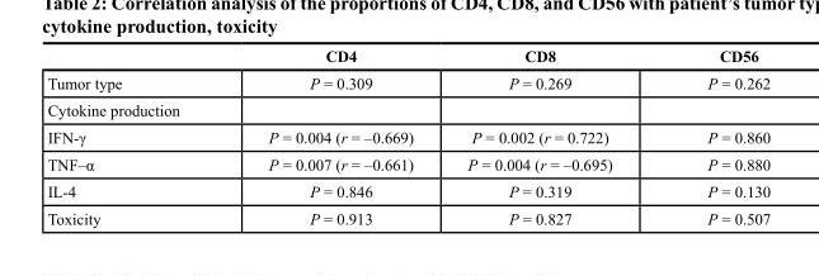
<table><thead><tr><td></td><td>CD4</td><td>CD8</td><td>CD56</td></tr></thead><tbody><tr><td>Tumor type</td><td>P = 0.309</td><td>P = 0.269</td><td>P = 0.262</td></tr><tr><td colspan="4">Cytokine production</td></tr><tr><td>IFN-γ</td><td>P = 0.004 (r = –0.669)</td><td>P = 0.002 (r = 0.722)</td><td>P = 0.860</td></tr><tr><td>TNF–α</td><td>P = 0.007 (r = –0.661)</td><td>P = 0.004 (r = –0.695)</td><td>P = 0.880</td></tr><tr><td>IL-4</td><td>P = 0.846</td><td>P = 0.319</td><td>P = 0.130</td></tr><tr><td>Toxicity</td><td>P = 0.913</td><td>P = 0.827</td><td>P = 0.507</td></tr></tbody></table>